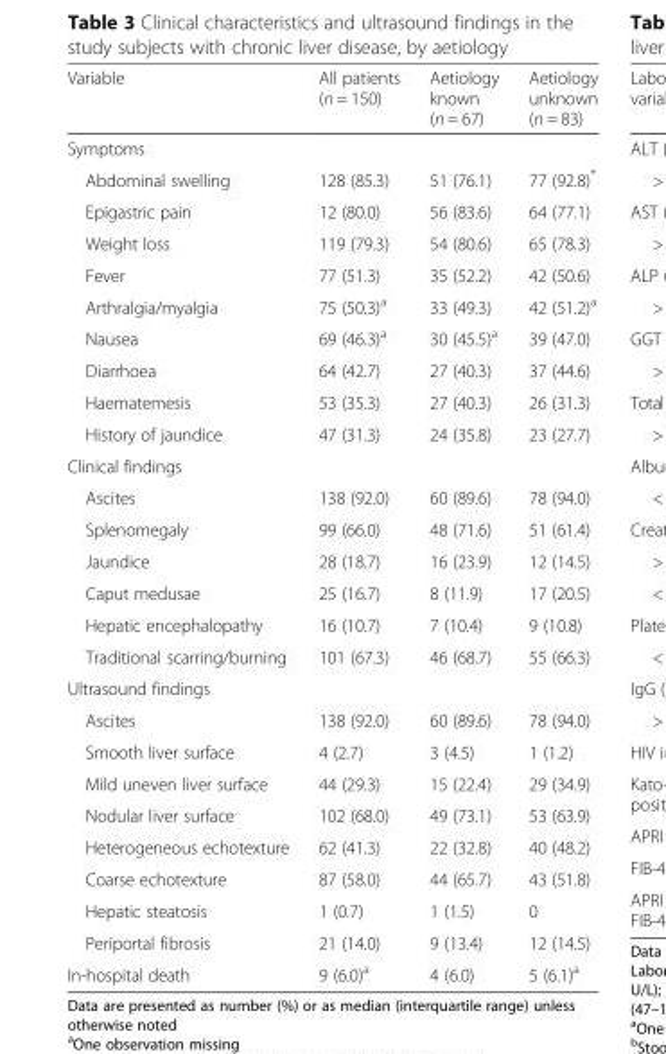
<table><thead><tr><td>Variable</td><td>All patients (n = 150)</td><td>Aetiology known (n = 67)</td><td>Aetiology unknown (n = 83)</td></tr></thead><tbody><tr><td colspan="4">Symptoms</td></tr><tr><td>Abdominal swelling</td><td>128 (85.3)</td><td>51 (76.1)</td><td>77 (92.8)*</td></tr><tr><td>Epigastric pain</td><td>12 (80.0)</td><td>56 (83.6)</td><td>64 (77.1)</td></tr><tr><td>Weight loss</td><td>119 (79.3)</td><td>54 (80.6)</td><td>65 (78.3)</td></tr><tr><td>Fever</td><td>77 (51.3)</td><td>35 (52.2)</td><td>42 (50.6)</td></tr><tr><td>Arthralgia/myalgia</td><td>75 (50.3)<sup>a</sup></td><td>33 (49.3)</td><td>42 (51.2)<sup>a</sup></td></tr><tr><td>Nausea</td><td>69 (46.3)<sup>a</sup></td><td>30 (45.5)<sup>a</sup></td><td>39 (47.0)</td></tr><tr><td>Diarrhoea</td><td>64 (42.7)</td><td>27 (40.3)</td><td>37 (44.6)</td></tr><tr><td>Haematemesis</td><td>53 (35.3)</td><td>27 (40.3)</td><td>26 (31.3)</td></tr><tr><td>History of jaundice</td><td>47 (31.3)</td><td>24 (35.8)</td><td>23 (27.7)</td></tr><tr><td colspan="4">Clinical findings</td></tr><tr><td>Ascites</td><td>138 (92.0)</td><td>60 (89.6)</td><td>78 (94.0)</td></tr><tr><td>Splenomegaly</td><td>99 (66.0)</td><td>48 (71.6)</td><td>51 (61.4)</td></tr><tr><td>Jaundice</td><td>28 (18.7)</td><td>16 (23.9)</td><td>12 (14.5)</td></tr><tr><td>Caput medusae</td><td>25 (16.7)</td><td>8 (11.9)</td><td>17 (20.5)</td></tr><tr><td>Hepatic encephalopathy</td><td>16 (10.7)</td><td>7 (10.4)</td><td>9 (10.8)</td></tr><tr><td>Traditional scarring/burning</td><td>101 (67.3)</td><td>46 (68.7)</td><td>55 (66.3)</td></tr><tr><td colspan="4">Ultrasound findings</td></tr><tr><td>Ascites</td><td>138 (92.0)</td><td>60 (89.6)</td><td>78 (94.0)</td></tr><tr><td>Smooth liver surface</td><td>4 (2.7)</td><td>3 (4.5)</td><td>1 (1.2)</td></tr><tr><td>Mild uneven liver surface</td><td>44 (29.3)</td><td>15 (22.4)</td><td>29 (34.9)</td></tr><tr><td>Nodular liver surface</td><td>102 (68.0)</td><td>49 (73.1)</td><td>53 (63.9)</td></tr><tr><td>Heterogeneous echotexture</td><td>62 (41.3)</td><td>22 (32.8)</td><td>40 (48.2)</td></tr><tr><td>Coarse echotexture</td><td>87 (58.0)</td><td>44 (65.7)</td><td>43 (51.8)</td></tr><tr><td>Hepatic steatosis</td><td>1 (0.7)</td><td>1 (1.5)</td><td>0</td></tr><tr><td>Periportal fibrosis</td><td>21 (14.0)</td><td>9 (13.4)</td><td>12 (14.5)</td></tr><tr><td>In-hospital death</td><td>9 (6.0)<sup>a</sup></td><td>4 (6.0)</td><td>5 (6.1)<sup>a</sup></td></tr></tbody></table>